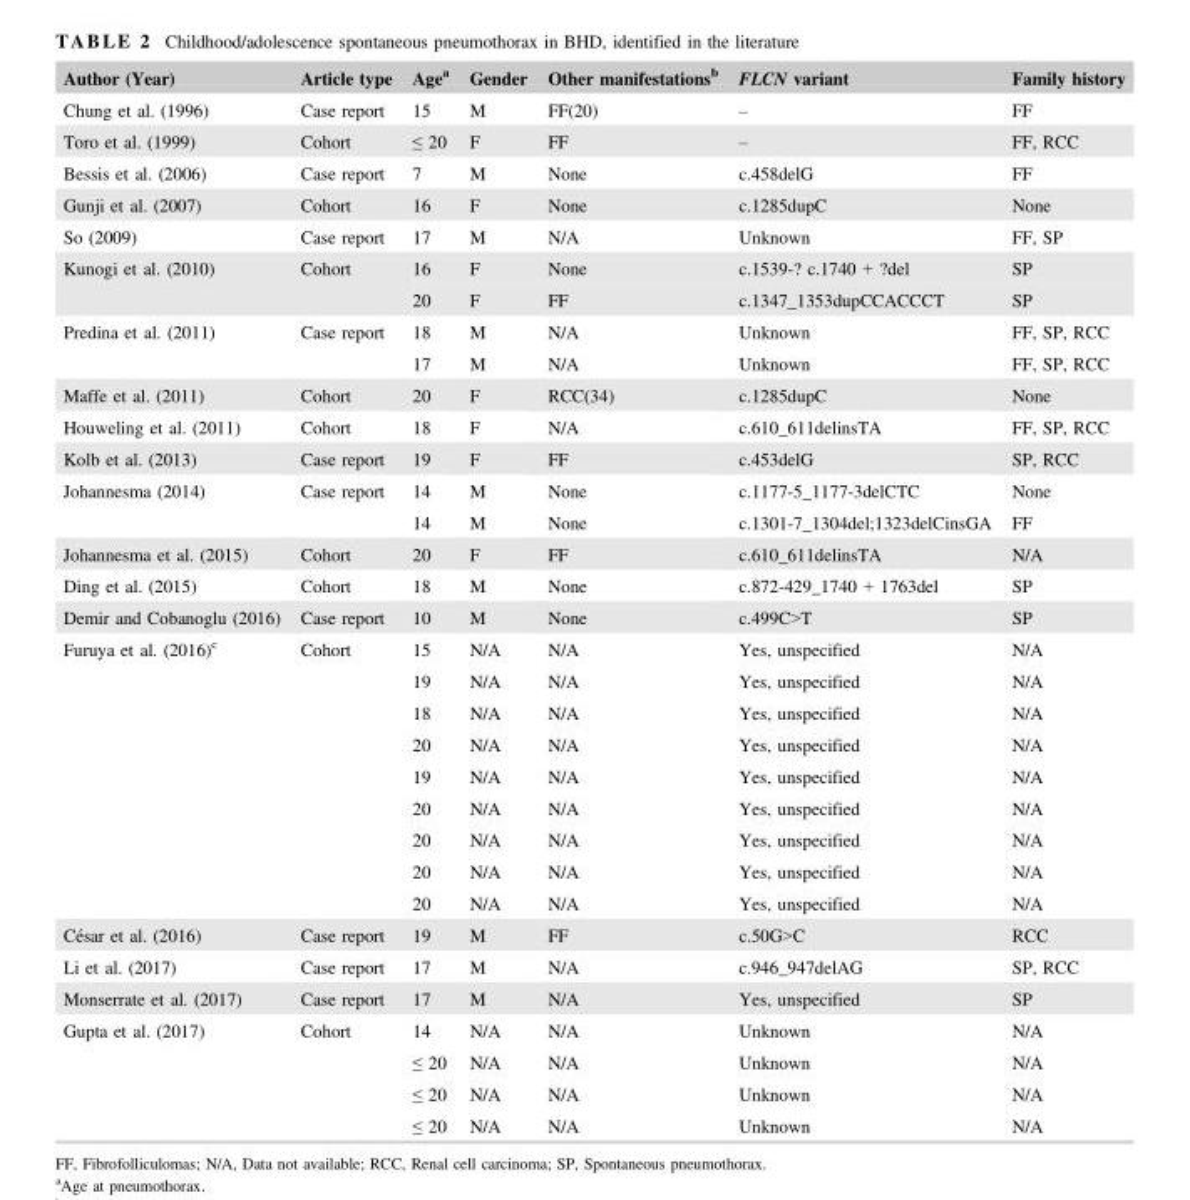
<table><thead><tr><td>Author (Year)</td><td>Article type</td><td>Age<sup>a</sup></td><td>Gender</td><td>Other manifestations<sup>b</sup></td><td>FLCN variant</td><td>Family history</td></tr></thead><tbody><tr><td>Chung et al. (1996)</td><td>Case report</td><td>15</td><td>M</td><td>FF(20)</td><td>–</td><td>FF</td></tr><tr><td>Toro et al. (1999)</td><td>Cohort</td><td>≤ 20</td><td>F</td><td>FF</td><td>–</td><td>FF, RCC</td></tr><tr><td>Bessis et al. (2006)</td><td>Case report</td><td>7</td><td>M</td><td>None</td><td>c.458delG</td><td>FF</td></tr><tr><td>Gunji et al. (2007)</td><td>Cohort</td><td>16</td><td>F</td><td>None</td><td>c.1285dupC</td><td>None</td></tr><tr><td>So (2009)</td><td>Case report</td><td>17</td><td>M</td><td>N/A</td><td>Unknown</td><td>FF, SP</td></tr><tr><td rowspan="2">Kunogi et al. (2010)</td><td rowspan="2">Cohort</td><td>16</td><td>F</td><td>None</td><td>c.1539-? c.1740 + ?del</td><td>SP</td></tr><tr><td>20</td><td>F</td><td>FF</td><td>c.1347_1353dupCCACCCT</td><td>SP</td></tr><tr><td rowspan="2">Predina et al. (2011)</td><td rowspan="2">Case report</td><td>18</td><td>M</td><td>N/A</td><td>Unknown</td><td>FF, SP, RCC</td></tr><tr><td>17</td><td>M</td><td>N/A</td><td>Unknown</td><td>FF, SP, RCC</td></tr><tr><td>Maffe et al. (2011)</td><td>Cohort</td><td>20</td><td>F</td><td>RCC(34)</td><td>c.1285dupC</td><td>None</td></tr><tr><td>Houweling et al. (2011)</td><td>Cohort</td><td>18</td><td>F</td><td>N/A</td><td>c.610_611delinsTA</td><td>FF, SP, RCC</td></tr><tr><td>Kolb et al. (2013)</td><td>Case report</td><td>19</td><td>F</td><td>FF</td><td>c.453delG</td><td>SP, RCC</td></tr><tr><td rowspan="2">Johannesma (2014)</td><td rowspan="2">Case report</td><td>14</td><td>M</td><td>None</td><td>c.1177-5_1177-3delCTC</td><td>None</td></tr><tr><td>14</td><td>M</td><td>None</td><td>c.1301-7_1304del;1323delCinsGA</td><td>FF</td></tr><tr><td>Johannesma et al. (2015)</td><td>Cohort</td><td>20</td><td>F</td><td>FF</td><td>c.610_611delinsTA</td><td>N/A</td></tr><tr><td>Ding et al. (2015)</td><td>Cohort</td><td>18</td><td>M</td><td>None</td><td>c.872-429_1740 + 1763del</td><td>SP</td></tr><tr><td>Demir and Cobanoglu (2016)</td><td>Case report</td><td>10</td><td>M</td><td>None</td><td>c.499C&gt;T</td><td>SP</td></tr><tr><td rowspan="9">Furuya et al. (2016)<sup>c</sup></td><td rowspan="9">Cohort</td><td>15</td><td>N/A</td><td>N/A</td><td>Yes, unspecified</td><td>N/A</td></tr><tr><td>19</td><td>N/A</td><td>N/A</td><td>Yes, unspecified</td><td>N/A</td></tr><tr><td>18</td><td>N/A</td><td>N/A</td><td>Yes, unspecified</td><td>N/A</td></tr><tr><td>20</td><td>N/A</td><td>N/A</td><td>Yes, unspecified</td><td>N/A</td></tr><tr><td>19</td><td>N/A</td><td>N/A</td><td>Yes, unspecified</td><td>N/A</td></tr><tr><td>20</td><td>N/A</td><td>N/A</td><td>Yes, unspecified</td><td>N/A</td></tr><tr><td>20</td><td>N/A</td><td>N/A</td><td>Yes, unspecified</td><td>N/A</td></tr><tr><td>20</td><td>N/A</td><td>N/A</td><td>Yes, unspecified</td><td>N/A</td></tr><tr><td>20</td><td>N/A</td><td>N/A</td><td>Yes, unspecified</td><td>N/A</td></tr><tr><td>C�esar et al. (2016)</td><td>Case report</td><td>19</td><td>M</td><td>FF</td><td>c.50G&gt;C</td><td>RCC</td></tr><tr><td>Li et al. (2017)</td><td>Case report</td><td>17</td><td>M</td><td>N/A</td><td>c.946_947delAG</td><td>SP, RCC</td></tr><tr><td>Monserrate et al. (2017)</td><td>Case report</td><td>17</td><td>M</td><td>N/A</td><td>Yes, unspecified</td><td>SP</td></tr><tr><td rowspan="4">Gupta et al. (2017)</td><td rowspan="4">Cohort</td><td>14</td><td>N/A</td><td>N/A</td><td>Unknown</td><td>N/A</td></tr><tr><td>≤ 20</td><td>N/A</td><td>N/A</td><td>Unknown</td><td>N/A</td></tr><tr><td>≤ 20</td><td>N/A</td><td>N/A</td><td>Unknown</td><td>N/A</td></tr><tr><td>≤ 20</td><td>N/A</td><td>N/A</td><td>Unknown</td><td>N/A</td></tr></tbody></table>